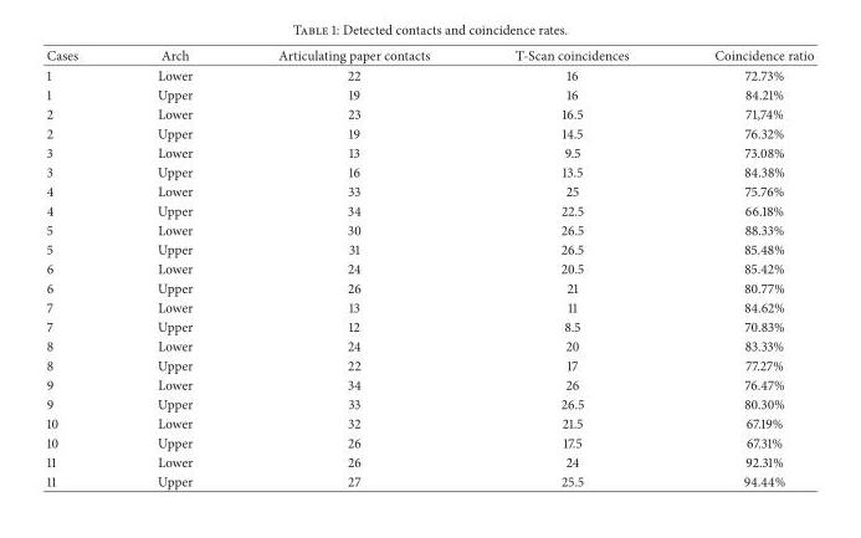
<table><thead><tr><td>Cases</td><td>Arch</td><td>Articulating paper contacts</td><td>T-Scan coincidences</td><td>Coincidence ratio</td></tr></thead><tbody><tr><td>1</td><td>Lower</td><td>22</td><td>16</td><td>72.73%</td></tr><tr><td>1</td><td>Upper</td><td>19</td><td>16</td><td>84.21%</td></tr><tr><td>2</td><td>Lower</td><td>23</td><td>16.5</td><td>71,74%</td></tr><tr><td>2</td><td>Upper</td><td>19</td><td>14.5</td><td>76.32%</td></tr><tr><td>3</td><td>Lower</td><td>13</td><td>9.5</td><td>73.08%</td></tr><tr><td>3</td><td>Upper</td><td>16</td><td>13.5</td><td>84.38%</td></tr><tr><td>4</td><td>Lower</td><td>33</td><td>25</td><td>75.76%</td></tr><tr><td>4</td><td>Upper</td><td>34</td><td>22.5</td><td>66.18%</td></tr><tr><td>5</td><td>Lower</td><td>30</td><td>26.5</td><td>88.33%</td></tr><tr><td>5</td><td>Upper</td><td>31</td><td>26.5</td><td>85.48%</td></tr><tr><td>6</td><td>Lower</td><td>24</td><td>20.5</td><td>85.42%</td></tr><tr><td>6</td><td>Upper</td><td>26</td><td>21</td><td>80.77%</td></tr><tr><td>7</td><td>Lower</td><td>13</td><td>11</td><td>84.62%</td></tr><tr><td>7</td><td>Upper</td><td>12</td><td>8.5</td><td>70.83%</td></tr><tr><td>8</td><td>Lower</td><td>24</td><td>20</td><td>83.33%</td></tr><tr><td>8</td><td>Upper</td><td>22</td><td>17</td><td>77.27%</td></tr><tr><td>9</td><td>Lower</td><td>34</td><td>26</td><td>76.47%</td></tr><tr><td>9</td><td>Upper</td><td>33</td><td>26.5</td><td>80.30%</td></tr><tr><td>10</td><td>Lower</td><td>32</td><td>21.5</td><td>67.19%</td></tr><tr><td>10</td><td>Upper</td><td>26</td><td>17.5</td><td>67.31%</td></tr><tr><td>11</td><td>Lower</td><td>26</td><td>24</td><td>92.31%</td></tr><tr><td>11</td><td>Upper</td><td>27</td><td>25.5</td><td>94.44%</td></tr></tbody></table>